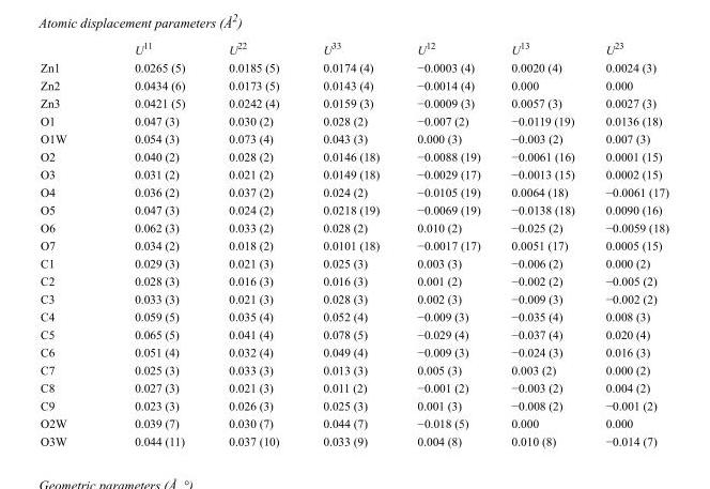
<table><thead><tr><td></td><td>U<sup>11</sup></td><td>U<sup>22</sup></td><td>U<sup>33</sup></td><td>U<sup>12</sup></td><td>U<sup>13</sup></td><td>U<sup>23</sup></td></tr></thead><tbody><tr><td>Zn1</td><td>0.0265 (5)</td><td>0.0185 (5)</td><td>0.0174 (4)</td><td>−0.0003 (4)</td><td>0.0020 (4)</td><td>0.0024 (3)</td></tr><tr><td>Zn2</td><td>0.0434 (6)</td><td>0.0173 (5)</td><td>0.0143 (4)</td><td>−0.0014 (4)</td><td>0.000</td><td>0.000</td></tr><tr><td>Zn3</td><td>0.0421 (5)</td><td>0.0242 (4)</td><td>0.0159 (3)</td><td>−0.0009 (3)</td><td>0.0057 (3)</td><td>0.0027 (3)</td></tr><tr><td>O1</td><td>0.047 (3)</td><td>0.030 (2)</td><td>0.028 (2)</td><td>−0.007 (2)</td><td>−0.0119 (19)</td><td>0.0136 (18)</td></tr><tr><td>O1W</td><td>0.054 (3)</td><td>0.073 (4)</td><td>0.043 (3)</td><td>0.000 (3)</td><td>−0.003 (2)</td><td>0.007 (3)</td></tr><tr><td>O2</td><td>0.040 (2)</td><td>0.028 (2)</td><td>0.0146 (18)</td><td>−0.0088 (19)</td><td>−0.0061 (16)</td><td>0.0001 (15)</td></tr><tr><td>O3</td><td>0.031 (2)</td><td>0.021 (2)</td><td>0.0149 (18)</td><td>−0.0029 (17)</td><td>−0.0013 (15)</td><td>0.0002 (15)</td></tr><tr><td>O4</td><td>0.036 (2)</td><td>0.037 (2)</td><td>0.024 (2)</td><td>−0.0105 (19)</td><td>0.0064 (18)</td><td>−0.0061 (17)</td></tr><tr><td>O5</td><td>0.047 (3)</td><td>0.024 (2)</td><td>0.0218 (19)</td><td>−0.0069 (19)</td><td>−0.0138 (18)</td><td>0.0090 (16)</td></tr><tr><td>O6</td><td>0.062 (3)</td><td>0.033 (2)</td><td>0.028 (2)</td><td>0.010 (2)</td><td>−0.025 (2)</td><td>−0.0059 (18)</td></tr><tr><td>O7</td><td>0.034 (2)</td><td>0.018 (2)</td><td>0.0101 (18)</td><td>−0.0017 (17)</td><td>0.0051 (17)</td><td>0.0005 (15)</td></tr><tr><td>C1</td><td>0.029 (3)</td><td>0.021 (3)</td><td>0.025 (3)</td><td>0.003 (3)</td><td>−0.006 (2)</td><td>0.000 (2)</td></tr><tr><td>C2</td><td>0.028 (3)</td><td>0.016 (3)</td><td>0.016 (3)</td><td>0.001 (2)</td><td>−0.002 (2)</td><td>−0.005 (2)</td></tr><tr><td>C3</td><td>0.033 (3)</td><td>0.021 (3)</td><td>0.028 (3)</td><td>0.002 (3)</td><td>−0.009 (3)</td><td>−0.002 (2)</td></tr><tr><td>C4</td><td>0.059 (5)</td><td>0.035 (4)</td><td>0.052 (4)</td><td>−0.009 (3)</td><td>−0.035 (4)</td><td>0.008 (3)</td></tr><tr><td>C5</td><td>0.065 (5)</td><td>0.041 (4)</td><td>0.078 (5)</td><td>−0.029 (4)</td><td>−0.037 (4)</td><td>0.020 (4)</td></tr><tr><td>C6</td><td>0.051 (4)</td><td>0.032 (4)</td><td>0.049 (4)</td><td>−0.009 (3)</td><td>−0.024 (3)</td><td>0.016 (3)</td></tr><tr><td>C7</td><td>0.025 (3)</td><td>0.033 (3)</td><td>0.013 (3)</td><td>0.005 (3)</td><td>0.003 (2)</td><td>0.000 (2)</td></tr><tr><td>C8</td><td>0.027 (3)</td><td>0.021 (3)</td><td>0.011 (2)</td><td>−0.001 (2)</td><td>−0.003 (2)</td><td>0.004 (2)</td></tr><tr><td>C9</td><td>0.023 (3)</td><td>0.026 (3)</td><td>0.025 (3)</td><td>0.001 (3)</td><td>−0.008 (2)</td><td>−0.001 (2)</td></tr><tr><td>O2W</td><td>0.039 (7)</td><td>0.030 (7)</td><td>0.044 (7)</td><td>−0.018 (5)</td><td>0.000</td><td>0.000</td></tr><tr><td>O3W</td><td>0.044 (11)</td><td>0.037 (10)</td><td>0.033 (9)</td><td>0.004 (8)</td><td>0.010 (8)</td><td>−0.014 (7)</td></tr></tbody></table>